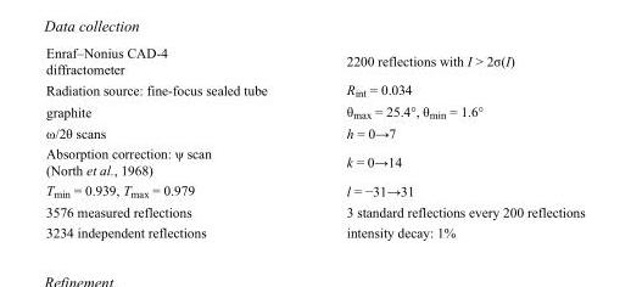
<table><tbody><tr><td>Enraf–Nonius CAD-4 diffractometer</td><td>2200 reflections with I &gt; 2σ(I)</td></tr><tr><td>Radiation source: fine-focus sealed tube</td><td>R<sub>int</sub> = 0.034</td></tr><tr><td>graphite</td><td>θ<sub>max</sub> = 25.4°, θ<sub>min</sub> = 1.6°</td></tr><tr><td>ω/2θ scans</td><td>h = 0→7</td></tr><tr><td>Absorption correction: ψ scan (North et al., 1968)</td><td>k = 0→14</td></tr><tr><td>T<sub>min</sub> = 0.939, T<sub>max</sub> = 0.979</td><td>l = −31→31</td></tr><tr><td>3576 measured reflections</td><td>3 standard reflections every 200 reflections</td></tr><tr><td>3234 independent reflections</td><td>intensity decay: 1%</td></tr></tbody></table>